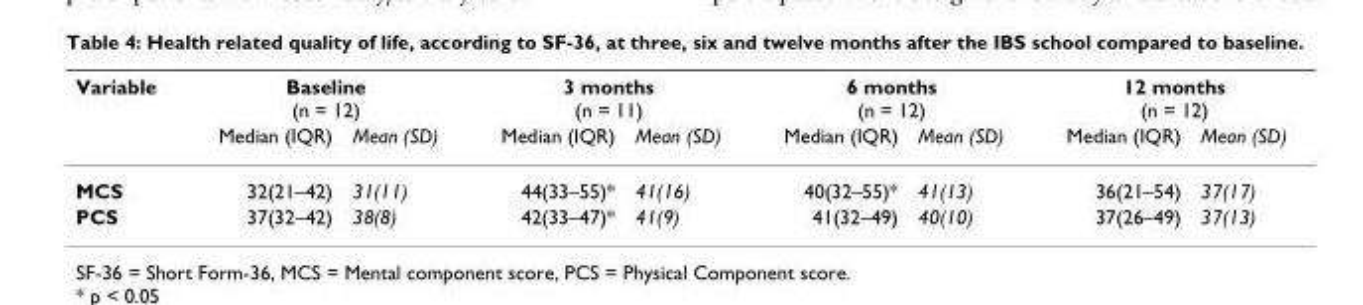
<table><thead><tr><td rowspan="2">Variable</td><td colspan="2">Baseline (n = 12)</td><td colspan="2">3 months (n = 11)</td><td colspan="2">6 months (n = 12)</td><td colspan="2">12 months (n = 12)</td></tr><tr><td>Median (IQR)</td><td>Mean (SD)</td><td>Median (IQR)</td><td>Mean (SD)</td><td>Median (IQR)</td><td>Mean (SD)</td><td>Median (IQR)</td><td>Mean (SD)</td></tr></thead><tbody><tr><td>MCS</td><td>32(21–42)</td><td>31(11)</td><td>44(33–55)*</td><td>41(16)</td><td>40(32–55)*</td><td>41(13)</td><td>36(21–54)</td><td>37(17)</td></tr><tr><td>PCS</td><td>37(32–42)</td><td>38(8)</td><td>42(33–47)*</td><td>41(9)</td><td>41(32–49)</td><td>40(10)</td><td>37(26–49)</td><td>37(13)</td></tr></tbody></table>